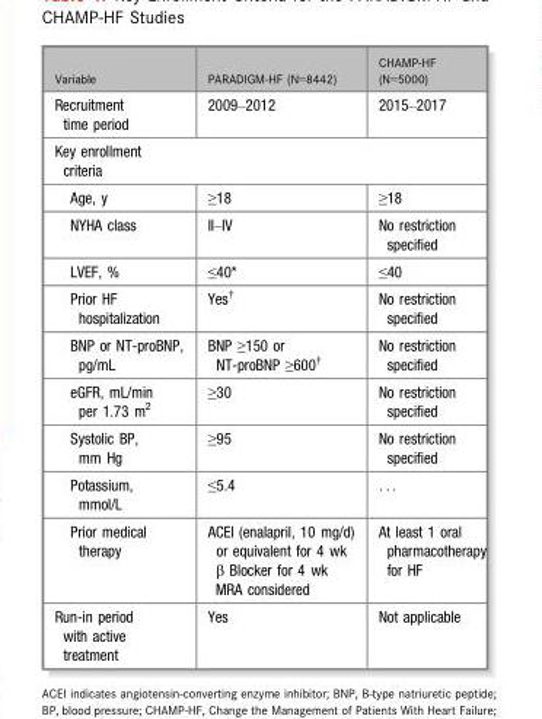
<table><thead><tr><td>Variable</td><td>PARADIGM-HF (N=8442)</td><td>CHAMP-HF (N=5000)</td></tr></thead><tbody><tr><td>Recruitment time period</td><td>2009–2012</td><td>2015–2017</td></tr><tr><td colspan="3">Key enrollment criteria</td></tr><tr><td>Age, y</td><td>≥18</td><td>≥18</td></tr><tr><td>NYHA class</td><td>II–IV</td><td>No restriction specified</td></tr><tr><td>LVEF, %</td><td>≤40*</td><td>≤40</td></tr><tr><td>Prior HF hospitalization</td><td>Yes†</td><td>No restriction specified</td></tr><tr><td>BNP or NT-proBNP, pg/mL</td><td>BNP ≥150 or NT-proBNP ≥600†</td><td>No restriction specified</td></tr><tr><td>eGFR, mL/min per 1.73 m<sup>2</sup></td><td>≥30</td><td>No restriction specified</td></tr><tr><td>Systolic BP, mm Hg</td><td>≥95</td><td>No restriction specified</td></tr><tr><td>Potassium, mmol/L</td><td>≤5.4</td><td>. . .</td></tr><tr><td>Prior medical therapy</td><td>ACEI (enalapril, 10 mg/d) or equivalent for 4 wk β Blocker for 4 wk MRA considered</td><td>At least 1 oral pharmacotherapy for HF</td></tr><tr><td>Run-in period with active treatment</td><td>Yes</td><td>Not applicable</td></tr></tbody></table>